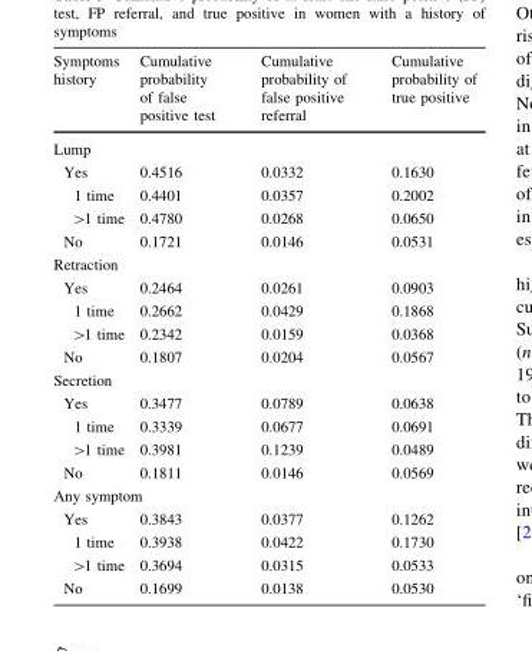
<table><thead><tr><td>Symptoms history</td><td>Cumulative probability of false positive test</td><td>Cumulative probability of false positive referral</td><td>Cumulative probability of true positive</td></tr></thead><tbody><tr><td colspan="4">Lump</td></tr><tr><td>Yes</td><td>0.4516</td><td>0.0332</td><td>0.1630</td></tr><tr><td>1 time</td><td>0.4401</td><td>0.0357</td><td>0.2002</td></tr><tr><td>&gt;1 time</td><td>0.4780</td><td>0.0268</td><td>0.0650</td></tr><tr><td>No</td><td>0.1721</td><td>0.0146</td><td>0.0531</td></tr><tr><td colspan="4">Retraction</td></tr><tr><td>Yes</td><td>0.2464</td><td>0.0261</td><td>0.0903</td></tr><tr><td>1 time</td><td>0.2662</td><td>0.0429</td><td>0.1868</td></tr><tr><td>&gt;1 time</td><td>0.2342</td><td>0.0159</td><td>0.0368</td></tr><tr><td>No</td><td>0.1807</td><td>0.0204</td><td>0.0567</td></tr><tr><td colspan="4">Secretion</td></tr><tr><td>Yes</td><td>0.3477</td><td>0.0789</td><td>0.0638</td></tr><tr><td>1 time</td><td>0.3339</td><td>0.0677</td><td>0.0691</td></tr><tr><td>&gt;1 time</td><td>0.3981</td><td>0.1239</td><td>0.0489</td></tr><tr><td>No</td><td>0.1811</td><td>0.0146</td><td>0.0569</td></tr><tr><td colspan="4">Any symptom</td></tr><tr><td>Yes</td><td>0.3843</td><td>0.0377</td><td>0.1262</td></tr><tr><td>1 time</td><td>0.3938</td><td>0.0422</td><td>0.1730</td></tr><tr><td>&gt;1 time</td><td>0.3694</td><td>0.0315</td><td>0.0533</td></tr><tr><td>No</td><td>0.1699</td><td>0.0138</td><td>0.0530</td></tr></tbody></table>